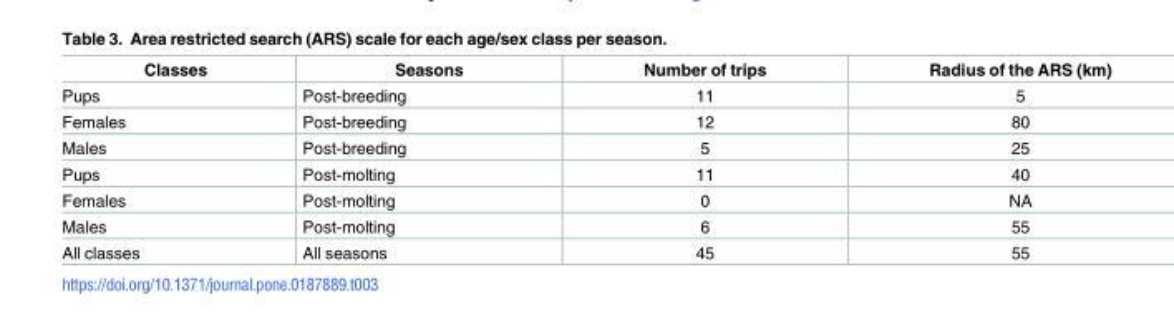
<table><thead><tr><td>Classes</td><td>Seasons</td><td>Number of trips</td><td>Radius of the ARS (km)</td></tr></thead><tbody><tr><td>Pups</td><td>Post-breeding</td><td>11</td><td>5</td></tr><tr><td>Females</td><td>Post-breeding</td><td>12</td><td>80</td></tr><tr><td>Males</td><td>Post-breeding</td><td>5</td><td>25</td></tr><tr><td>Pups</td><td>Post-molting</td><td>11</td><td>40</td></tr><tr><td>Females</td><td>Post-molting</td><td>0</td><td>NA</td></tr><tr><td>Males</td><td>Post-molting</td><td>6</td><td>55</td></tr><tr><td>All classes</td><td>All seasons</td><td>45</td><td>55</td></tr></tbody></table>